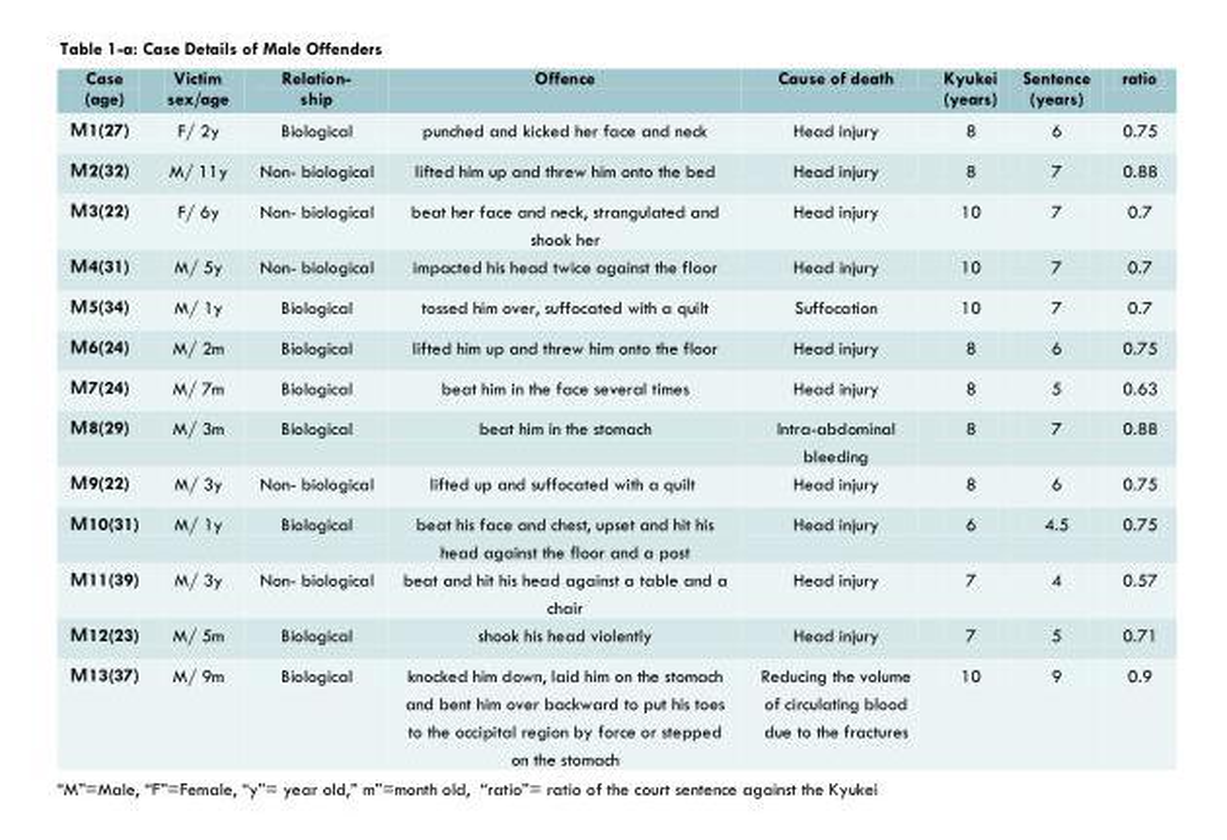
<table><thead><tr><td>Case (age)</td><td>Victim sex/age</td><td>Relation- ship</td><td>Offence</td><td>Cause of death</td><td>Kyukei (years)</td><td>Sentence (years)</td><td>ratio</td></tr></thead><tbody><tr><td>Ｍ1(27)</td><td>F/ 2y</td><td>Biological</td><td>punched and kicked her face and neck</td><td>Head injury</td><td>8</td><td>6</td><td>0.75</td></tr><tr><td>Ｍ2(32)</td><td>M/ 11y</td><td>Non- biological</td><td>lifted him up and threw him onto the bed</td><td>Head injury</td><td>8</td><td>7</td><td>0.88</td></tr><tr><td>Ｍ3(22)</td><td>F/ 6y</td><td>Non- biological</td><td>beat her face and neck, strangulated and shook her</td><td>Head injury</td><td>10</td><td>7</td><td>0.7</td></tr><tr><td>Ｍ4(31)</td><td>M/ 5y</td><td>Non- biological</td><td>impacted his head twice against the floor</td><td>Head injury</td><td>10</td><td>7</td><td>0.7</td></tr><tr><td>Ｍ5(34)</td><td>M/ 1y</td><td>Biological</td><td>tossed him over, suffocated with a quilt</td><td>Suffocation</td><td>10</td><td>7</td><td>0.7</td></tr><tr><td>Ｍ6(24)</td><td>M/ 2m</td><td>Biological</td><td>lifted him up and threw him onto the floor</td><td>Head injury</td><td>8</td><td>6</td><td>0.75</td></tr><tr><td>Ｍ7(24)</td><td>M/ 7m</td><td>Biological</td><td>beat him in the face several times</td><td>Head injury</td><td>8</td><td>5</td><td>0.63</td></tr><tr><td>Ｍ8(29)</td><td>M/ 3m</td><td>Biological</td><td>beat him in the stomach</td><td>Intra-abdominal bleeding</td><td>8</td><td>7</td><td>0.88</td></tr><tr><td>Ｍ9(22)</td><td>M/ 3y</td><td>Non- biological</td><td>lifted up and suffocated with a quilt</td><td>Head injury</td><td>8</td><td>6</td><td>0.75</td></tr><tr><td>Ｍ10(31)</td><td>M/ 1y</td><td>Biological</td><td>beat his face and chest, upset and hit his head against the floor and a post</td><td>Head injury</td><td>6</td><td>4.5</td><td>0.75</td></tr><tr><td>Ｍ11(39)</td><td>M/ 3y</td><td>Non- biological</td><td>beat and hit his head against a table and a chair</td><td>Head injury</td><td>7</td><td>4</td><td>0.57</td></tr><tr><td>Ｍ12(23)</td><td>M/ 5m</td><td>Biological</td><td>shook his head violently</td><td>Head injury</td><td>7</td><td>5</td><td>0.71</td></tr><tr><td>Ｍ13(37)</td><td>M/ 9m</td><td>Biological</td><td>knocked him down, laid him on the stomach and bent him over backward to put his toes to the occipital region by force or stepped on the stomach</td><td>Reducing the volume of circulating blood due to the fractures</td><td>10</td><td>9</td><td>0.9</td></tr></tbody></table>